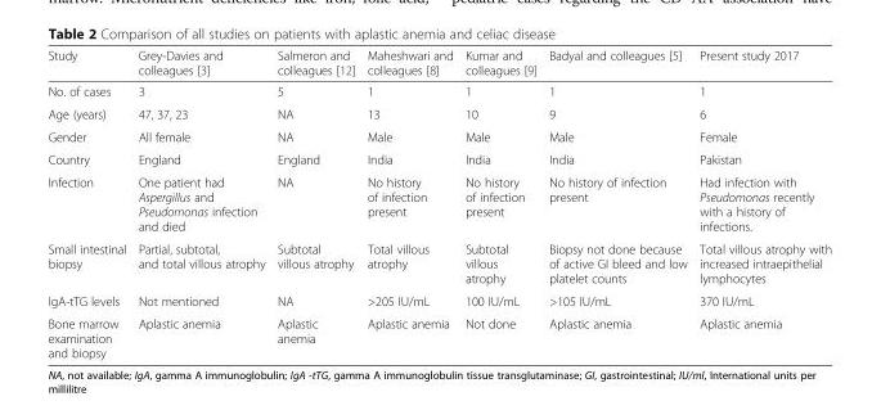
<table><thead><tr><td>Study</td><td>Grey-Davies and colleagues [3]</td><td>Salmeron and colleagues [12]</td><td>Maheshwari and colleagues [8]</td><td>Kumar and colleagues [9]</td><td>Badyal and colleagues [5]</td><td>Present study 2017</td></tr></thead><tbody><tr><td>No. of cases</td><td>3</td><td>5</td><td>1</td><td>1</td><td>1</td><td>1</td></tr><tr><td>Age (years)</td><td>47, 37, 23</td><td>NA</td><td>13</td><td>10</td><td>9</td><td>6</td></tr><tr><td>Gender</td><td>All female</td><td>NA</td><td>Male</td><td>Male</td><td>Male</td><td>Female</td></tr><tr><td>Country</td><td>England</td><td>England</td><td>India</td><td>India</td><td>India</td><td>Pakistan</td></tr><tr><td>Infection</td><td>One patient had Aspergillus and Pseudomonas infection and died</td><td>NA</td><td>No history of infection present</td><td>No history of infection present</td><td>No history of infection present</td><td>Had infection with Pseudomonas recently with a history of infections.</td></tr><tr><td>Small intestinal biopsy</td><td>Partial, subtotal, and total villous atrophy</td><td>Subtotal villous atrophy</td><td>Total villous atrophy</td><td>Subtotal villous atrophy</td><td>Biopsy not done because of active GI bleed and low platelet counts</td><td>Total villous atrophy with increased intraepithelial lymphocytes</td></tr><tr><td>IgA-tTG levels</td><td>Not mentioned</td><td>NA</td><td>&gt;205 IU/mL</td><td>100 IU/mL</td><td>&gt;105 IU/mL</td><td>370 IU/mL</td></tr><tr><td>Bone marrow examination and biopsy</td><td>Aplastic anemia</td><td>Aplastic anemia</td><td>Aplastic anemia</td><td>Not done</td><td>Aplastic anemia</td><td>Aplastic anemia</td></tr></tbody></table>